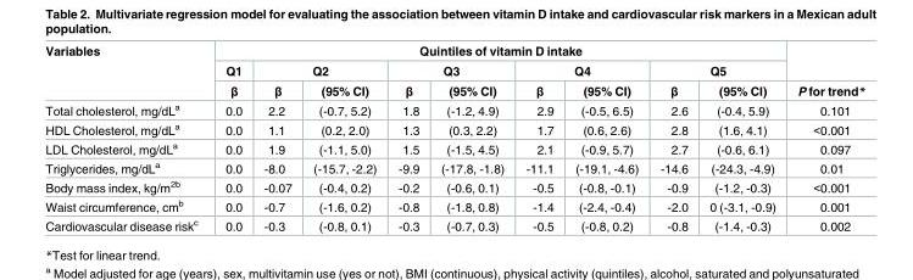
<table><thead><tr><td rowspan="3">Variables</td><td colspan="9">Quintiles of vitamin D intake</td><td rowspan="3">P for trend*</td></tr><tr><td rowspan="2">Q1 β</td><td colspan="2">Q2</td><td colspan="2">Q3</td><td colspan="2">Q4</td><td colspan="2">Q5</td></tr><tr><td>β</td><td>(95% CI)</td><td>β</td><td>(95% CI)</td><td>β</td><td>(95% CI)</td><td>β</td><td>(95% CI)</td></tr></thead><tbody><tr><td>Total cholesterol, mg/dL<sup>a</sup></td><td>0.0</td><td>2.2</td><td>(-0.7, 5.2)</td><td>1.8</td><td>(-1.2, 4.9)</td><td>2.9</td><td>(-0.5, 6.5)</td><td>2.6</td><td>(-0.4, 5.9)</td><td>0.101</td></tr><tr><td>HDL Cholesterol, mg/dL<sup>a</sup></td><td>0.0</td><td>1.1</td><td>(0.2, 2.0)</td><td>1.3</td><td>(0.3, 2.2)</td><td>1.7</td><td>(0.6, 2.6)</td><td>2.8</td><td>(1.6, 4.1)</td><td>&lt;0.001</td></tr><tr><td>LDL Cholesterol, mg/dL<sup>a</sup></td><td>0.0</td><td>1.9</td><td>(-1.1, 5.0)</td><td>1.5</td><td>(-1.5, 4.5)</td><td>2.1</td><td>(-0.9, 5.7)</td><td>2.7</td><td>(-0.6, 6.1)</td><td>0.097</td></tr><tr><td>Triglycerides, mg/dL<sup>a</sup></td><td>0.0</td><td>-8.0</td><td>(-15.7, -2.2)</td><td>-9.9</td><td>(-17.8, -1.8)</td><td>-11.1</td><td>(-19.1, -4.6)</td><td>-14.6</td><td>(-24.3, -4.9)</td><td>0.01</td></tr><tr><td>Body mass index, kg/m<sup>2b</sup></td><td>0.0</td><td>-0.07</td><td>(-0.4, 0.2)</td><td>-0.2</td><td>(-0.6, 0.1)</td><td>-0.5</td><td>(-0.8, -0.1)</td><td>-0.9</td><td>(-1.2, -0.3)</td><td>&lt;0.001</td></tr><tr><td>Waist circumference, cm<sup>b</sup></td><td>0.0</td><td>-0.7</td><td>(-1.6, 0.2)</td><td>-0.8</td><td>(-1.8, 0.8)</td><td>-1.4</td><td>(-2.4, -0.4)</td><td>-2.0</td><td>0 (-3.1, -0.9)</td><td>0.001</td></tr><tr><td>Cardiovascular disease risk<sup>c</sup></td><td>0.0</td><td>-0.3</td><td>(-0.8, 0.1)</td><td>-0.3</td><td>(-0.7, 0.3)</td><td>-0.5</td><td>(-0.8, 0.2)</td><td>-0.8</td><td>(-1.4, -0.3)</td><td>0.002</td></tr></tbody></table>